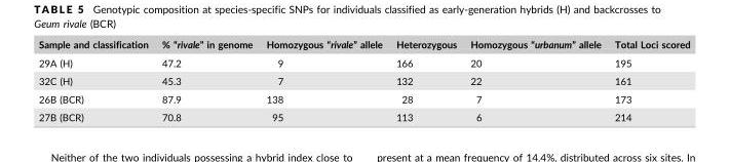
<table><thead><tr><td>Sample and classification</td><td>% “rivale” in genome</td><td>Homozygous “rivale” allele</td><td>Heterozygous</td><td>Homozygous “urbanum” allele</td><td>Total Loci scored</td></tr></thead><tbody><tr><td>29A (H)</td><td>47.2</td><td>9</td><td>166</td><td>20</td><td>195</td></tr><tr><td>32C (H)</td><td>45.3</td><td>7</td><td>132</td><td>22</td><td>161</td></tr><tr><td>26B (BCR)</td><td>87.9</td><td>138</td><td>28</td><td>7</td><td>173</td></tr><tr><td>27B (BCR)</td><td>70.8</td><td>95</td><td>113</td><td>6</td><td>214</td></tr></tbody></table>